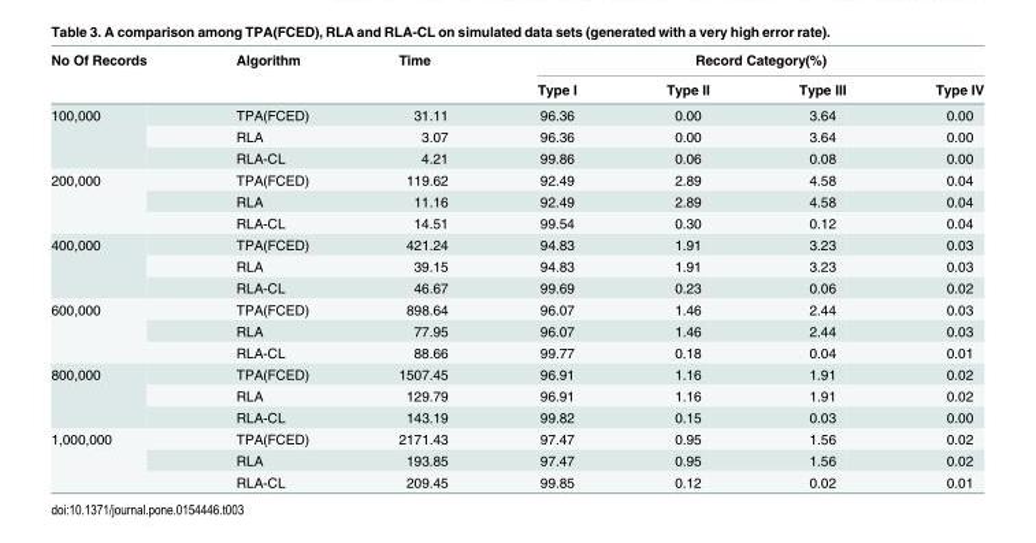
<table><thead><tr><td rowspan="2">No Of Records</td><td rowspan="2">Algorithm</td><td rowspan="2">Time</td><td colspan="4">Record Category(%)</td></tr><tr><td>Type I</td><td>Type II</td><td>Type III</td><td>Type IV</td></tr></thead><tbody><tr><td rowspan="3">100,000</td><td>TPA(FCED)</td><td>31.11</td><td>96.36</td><td>0.00</td><td>3.64</td><td>0.00</td></tr><tr><td>RLA</td><td>3.07</td><td>96.36</td><td>0.00</td><td>3.64</td><td>0.00</td></tr><tr><td>RLA-CL</td><td>4.21</td><td>99.86</td><td>0.06</td><td>0.08</td><td>0.00</td></tr><tr><td rowspan="3">200,000</td><td>TPA(FCED)</td><td>119.62</td><td>92.49</td><td>2.89</td><td>4.58</td><td>0.04</td></tr><tr><td>RLA</td><td>11.16</td><td>92.49</td><td>2.89</td><td>4.58</td><td>0.04</td></tr><tr><td>RLA-CL</td><td>14.51</td><td>99.54</td><td>0.30</td><td>0.12</td><td>0.04</td></tr><tr><td rowspan="3">400,000</td><td>TPA(FCED)</td><td>421.24</td><td>94.83</td><td>1.91</td><td>3.23</td><td>0.03</td></tr><tr><td>RLA</td><td>39.15</td><td>94.83</td><td>1.91</td><td>3.23</td><td>0.03</td></tr><tr><td>RLA-CL</td><td>46.67</td><td>99.69</td><td>0.23</td><td>0.06</td><td>0.02</td></tr><tr><td rowspan="3">600,000</td><td>TPA(FCED)</td><td>898.64</td><td>96.07</td><td>1.46</td><td>2.44</td><td>0.03</td></tr><tr><td>RLA</td><td>77.95</td><td>96.07</td><td>1.46</td><td>2.44</td><td>0.03</td></tr><tr><td>RLA-CL</td><td>88.66</td><td>99.77</td><td>0.18</td><td>0.04</td><td>0.01</td></tr><tr><td rowspan="3">800,000</td><td>TPA(FCED)</td><td>1507.45</td><td>96.91</td><td>1.16</td><td>1.91</td><td>0.02</td></tr><tr><td>RLA</td><td>129.79</td><td>96.91</td><td>1.16</td><td>1.91</td><td>0.02</td></tr><tr><td>RLA-CL</td><td>143.19</td><td>99.82</td><td>0.15</td><td>0.03</td><td>0.00</td></tr><tr><td rowspan="3">1,000,000</td><td>TPA(FCED)</td><td>2171.43</td><td>97.47</td><td>0.95</td><td>1.56</td><td>0.02</td></tr><tr><td>RLA</td><td>193.85</td><td>97.47</td><td>0.95</td><td>1.56</td><td>0.02</td></tr><tr><td>RLA-CL</td><td>209.45</td><td>99.85</td><td>0.12</td><td>0.02</td><td>0.01</td></tr></tbody></table>